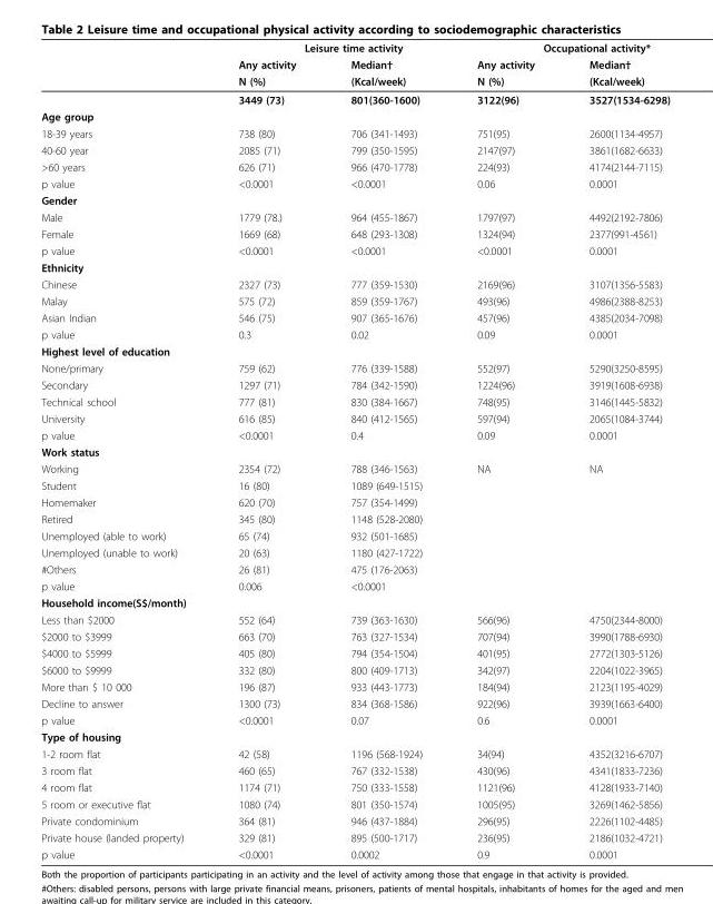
<table><thead><tr><td rowspan="3"></td><td colspan="2">Leisure time activity</td><td colspan="2">Occupational activity*</td></tr><tr><td rowspan="2">Any activity N (%)</td><td rowspan="2">Median† (Kcal/week)</td><td rowspan="2">Any activity N (%)</td><td rowspan="2">Median† (Kcal/week)</td></tr><tr></tr></thead><tbody><tr><td></td><td>3449 (73)</td><td>801(360-1600)</td><td>3122(96)</td><td>3527(1534-6298)</td></tr><tr><td colspan="5">Age group</td></tr><tr><td>18-39 years</td><td>738 (80)</td><td>706 (341-1493)</td><td>751(95)</td><td>2600(1134-4957)</td></tr><tr><td>40-60 year</td><td>2085 (71)</td><td>799 (350-1595)</td><td>2147(97)</td><td>3861(1682-6633)</td></tr><tr><td>&gt;60 years</td><td>626 (71)</td><td>966 (470-1778)</td><td>224(93)</td><td>4174(2144-7115)</td></tr><tr><td>p value</td><td>&lt;0.0001</td><td>&lt;0.0001</td><td>0.06</td><td>0.0001</td></tr><tr><td colspan="5">Gender</td></tr><tr><td>Male</td><td>1779 (78.)</td><td>964 (455-1867)</td><td>1797(97)</td><td>4492(2192-7806)</td></tr><tr><td>Female</td><td>1669 (68)</td><td>648 (293-1308)</td><td>1324(94)</td><td>2377(991-4561)</td></tr><tr><td>p value</td><td>&lt;0.0001</td><td>&lt;0.0001</td><td>&lt;0.0001</td><td>0.0001</td></tr><tr><td colspan="5">Ethnicity</td></tr><tr><td>Chinese</td><td>2327 (73)</td><td>777 (359-1530)</td><td>2169(96)</td><td>3107(1356-5583)</td></tr><tr><td>Malay</td><td>575 (72)</td><td>859 (359-1767)</td><td>493(96)</td><td>4986(2388-8253)</td></tr><tr><td>Asian Indian</td><td>546 (75)</td><td>907 (365-1676)</td><td>457(96)</td><td>4385(2034-7098)</td></tr><tr><td>p value</td><td>0.3</td><td>0.02</td><td>0.09</td><td>0.0001</td></tr><tr><td colspan="5">Highest level of education</td></tr><tr><td>None/primary</td><td>759 (62)</td><td>776 (339-1588)</td><td>552(97)</td><td>5290(3250-8595)</td></tr><tr><td>Secondary</td><td>1297 (71)</td><td>784 (342-1590)</td><td>1224(96)</td><td>3919(1608-6938)</td></tr><tr><td>Technical school</td><td>777 (81)</td><td>830 (384-1667)</td><td>748(95)</td><td>3146(1445-5832)</td></tr><tr><td>University</td><td>616 (85)</td><td>840 (412-1565)</td><td>597(94)</td><td>2065(1084-3744)</td></tr><tr><td>p value</td><td>&lt;0.0001</td><td>0.4</td><td>0.09</td><td>0.0001</td></tr><tr><td colspan="5">Work status</td></tr><tr><td>Working</td><td>2354 (72)</td><td>788 (346-1563)</td><td>NA</td><td>NA</td></tr><tr><td>Student</td><td>16 (80)</td><td>1089 (649-1515)</td><td></td><td></td></tr><tr><td>Homemaker</td><td>620 (70)</td><td>757 (354-1499)</td><td></td><td></td></tr><tr><td>Retired</td><td>345 (80)</td><td>1148 (528-2080)</td><td></td><td></td></tr><tr><td>Unemployed (able to work)</td><td>65 (74)</td><td>932 (501-1685)</td><td></td><td></td></tr><tr><td>Unemployed (unable to work)</td><td>20 (63)</td><td>1180 (427-1722)</td><td></td><td></td></tr><tr><td>#Others</td><td>26 (81)</td><td>475 (176-2063)</td><td></td><td></td></tr><tr><td>p value</td><td>0.006</td><td>&lt;0.0001</td><td></td><td></td></tr><tr><td colspan="5">Household income(S$/month)</td></tr><tr><td>Less than $2000</td><td>552 (64)</td><td>739 (363-1630)</td><td>566(96)</td><td>4750(2344-8000)</td></tr><tr><td>$2000 to $3999</td><td>663 (70)</td><td>763 (327-1534)</td><td>707(94)</td><td>3990(1788-6930)</td></tr><tr><td>$4000 to $5999</td><td>405 (80)</td><td>794 (354-1504)</td><td>401(95)</td><td>2772(1303-5126)</td></tr><tr><td>$6000 to $9999</td><td>332 (80)</td><td>800 (409-1713)</td><td>342(97)</td><td>2204(1022-3965)</td></tr><tr><td>More than $ 10 000</td><td>196 (87)</td><td>933 (443-1773)</td><td>184(94)</td><td>2123(1195-4029)</td></tr><tr><td>Decline to answer</td><td>1300 (73)</td><td>834 (368-1586)</td><td>922(96)</td><td>3939(1663-6400)</td></tr><tr><td>p value</td><td>&lt;0.0001</td><td>0.07</td><td>0.6</td><td>0.0001</td></tr><tr><td colspan="5">Type of housing</td></tr><tr><td>1-2 room flat</td><td>42 (58)</td><td>1196 (568-1924)</td><td>34(94)</td><td>4352(3216-6707)</td></tr><tr><td>3 room flat</td><td>460 (65)</td><td>767 (332-1538)</td><td>430(96)</td><td>4341(1833-7236)</td></tr><tr><td>4 room flat</td><td>1174 (71)</td><td>750 (333-1558)</td><td>1121(96)</td><td>4128(1933-7140)</td></tr><tr><td>5 room or executive flat</td><td>1080 (74)</td><td>801 (350-1574)</td><td>1005(95)</td><td>3269(1462-5856)</td></tr><tr><td>Private condominium</td><td>364 (81)</td><td>946 (437-1884)</td><td>296(95)</td><td>2226(1102-4485)</td></tr><tr><td>Private house (landed property)</td><td>329 (81)</td><td>895 (500-1717)</td><td>236(95)</td><td>2186(1032-4721)</td></tr><tr><td>p value</td><td>&lt;0.0001</td><td>0.0002</td><td>0.9</td><td>0.0001</td></tr></tbody></table>